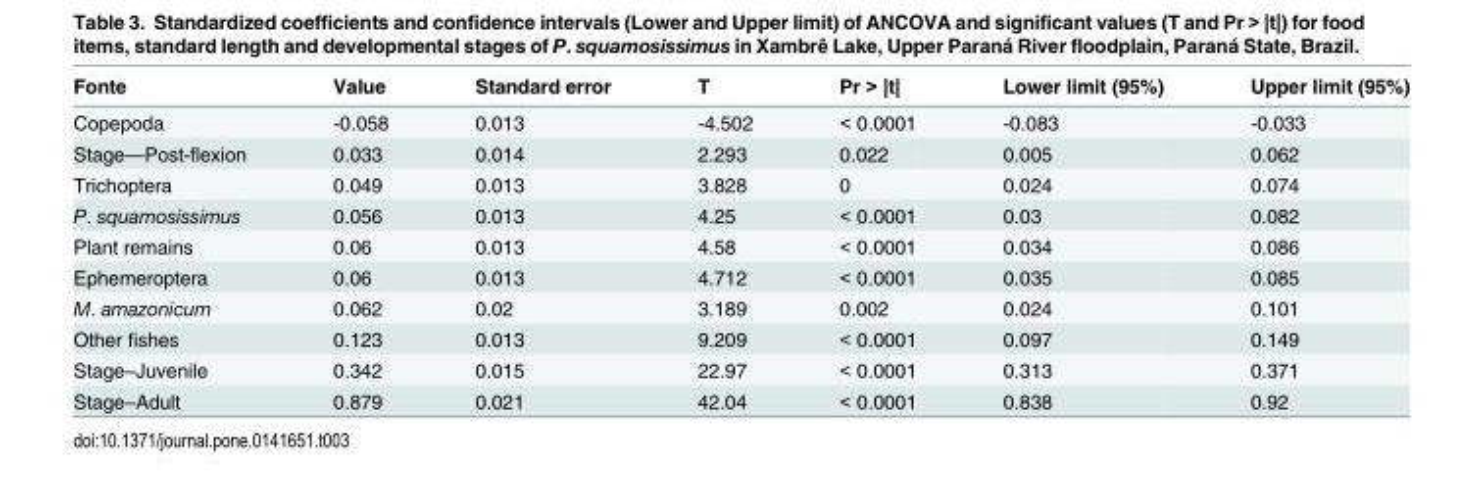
<table><thead><tr><td>Fonte</td><td>Value</td><td>Standard error</td><td>T</td><td>Pr &gt; |t|</td><td>Lower limit (95%)</td><td>Upper limit (95%)</td></tr></thead><tbody><tr><td>Copepoda</td><td>-0.058</td><td>0.013</td><td>-4.502</td><td>&lt; 0.0001</td><td>-0.083</td><td>-0.033</td></tr><tr><td>Stage—Post-flexion</td><td>0.033</td><td>0.014</td><td>2.293</td><td>0.022</td><td>0.005</td><td>0.062</td></tr><tr><td>Trichoptera</td><td>0.049</td><td>0.013</td><td>3.828</td><td>0</td><td>0.024</td><td>0.074</td></tr><tr><td>P. squamosissimus</td><td>0.056</td><td>0.013</td><td>4.25</td><td>&lt; 0.0001</td><td>0.03</td><td>0.082</td></tr><tr><td>Plant remains</td><td>0.06</td><td>0.013</td><td>4.58</td><td>&lt; 0.0001</td><td>0.034</td><td>0.086</td></tr><tr><td>Ephemeroptera</td><td>0.06</td><td>0.013</td><td>4.712</td><td>&lt; 0.0001</td><td>0.035</td><td>0.085</td></tr><tr><td>M. amazonicum</td><td>0.062</td><td>0.02</td><td>3.189</td><td>0.002</td><td>0.024</td><td>0.101</td></tr><tr><td>Other fishes</td><td>0.123</td><td>0.013</td><td>9.209</td><td>&lt; 0.0001</td><td>0.097</td><td>0.149</td></tr><tr><td>Stage–Juvenile</td><td>0.342</td><td>0.015</td><td>22.97</td><td>&lt; 0.0001</td><td>0.313</td><td>0.371</td></tr><tr><td>Stage–Adult</td><td>0.879</td><td>0.021</td><td>42.04</td><td>&lt; 0.0001</td><td>0.838</td><td>0.92</td></tr></tbody></table>